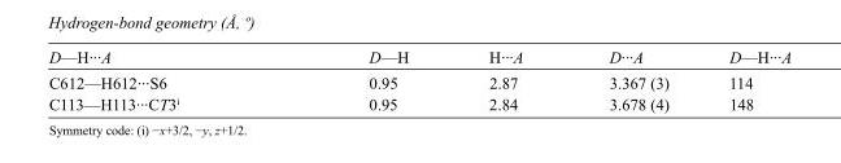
<table><tbody><tr><td>D—H···A</td><td>D—H</td><td>H···A</td><td>D···A</td><td>D—H···A</td></tr><tr><td>C612—H612···S6</td><td>0.95</td><td>2.87</td><td>3.367 (3)</td><td>114</td></tr><tr><td>C113—H113···CT3<sup>i</sup></td><td>0.95</td><td>2.84</td><td>3.678 (4)</td><td>148</td></tr></tbody></table>